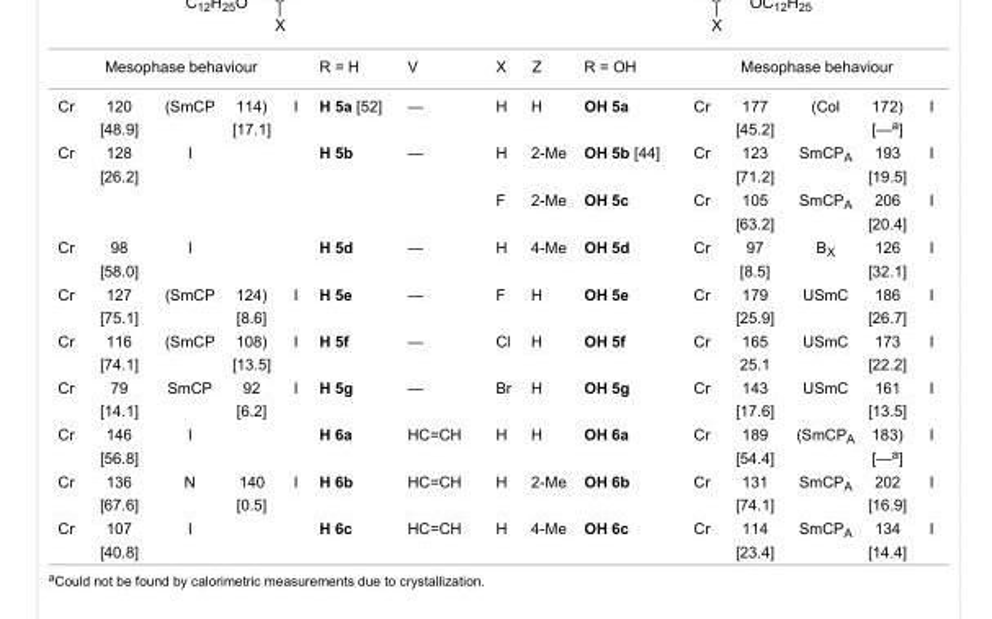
<table><tbody><tr><td colspan="5">Mesophase behaviour</td><td>R = H</td><td>V</td><td>X</td><td>Z</td><td>R = OH</td><td colspan="5">Mesophase behaviour</td></tr><tr><td rowspan="2">Cr</td><td>120</td><td>(SmCP</td><td>114)</td><td>I</td><td>H 5a [52]</td><td>—</td><td>H</td><td>H</td><td>OH 5a</td><td>Cr</td><td>177</td><td>(Col</td><td>172)</td><td>I</td></tr><tr><td>[48.9]</td><td></td><td>[17.1]</td><td></td><td></td><td></td><td></td><td></td><td></td><td></td><td>[45.2]</td><td></td><td>[—<sup>a</sup>]</td><td></td></tr><tr><td rowspan="4">Cr</td><td>128</td><td>I</td><td></td><td></td><td>H 5b</td><td>—</td><td>H</td><td>2-Me</td><td>OH 5b [44]</td><td>Cr</td><td>123</td><td>SmCP<sub>A</sub></td><td>193</td><td>I</td></tr><tr><td>[26.2]</td><td></td><td></td><td></td><td></td><td></td><td></td><td></td><td></td><td></td><td>[71.2]</td><td></td><td>[19.5]</td><td></td></tr><tr><td></td><td></td><td></td><td></td><td></td><td></td><td>F</td><td>2-Me</td><td>OH 5c</td><td>Cr</td><td>105</td><td>SmCP<sub>A</sub></td><td>206</td><td>I</td></tr><tr><td></td><td></td><td></td><td></td><td></td><td></td><td></td><td></td><td></td><td></td><td>[63.2]</td><td></td><td>[20.4]</td><td></td></tr><tr><td rowspan="2">Cr</td><td>98</td><td>I</td><td></td><td></td><td>H 5d</td><td>—</td><td>H</td><td>4-Me</td><td>OH 5d</td><td>Cr</td><td>97</td><td>B<sub>X</sub></td><td>126</td><td>I</td></tr><tr><td>[58.0]</td><td></td><td></td><td></td><td></td><td></td><td></td><td></td><td></td><td></td><td>[8.5]</td><td></td><td>[32.1]</td><td></td></tr><tr><td rowspan="2">Cr</td><td>127</td><td>(SmCP</td><td>124)</td><td>I</td><td>H 5e</td><td>—</td><td>F</td><td>H</td><td>OH 5e</td><td>Cr</td><td>179</td><td>USmC</td><td>186</td><td>I</td></tr><tr><td>[75.1]</td><td></td><td>[8.6]</td><td></td><td></td><td></td><td></td><td></td><td></td><td></td><td>[25.9]</td><td></td><td>[26.7]</td><td></td></tr><tr><td rowspan="2">Cr</td><td>116</td><td>(SmCP</td><td>108)</td><td>I</td><td>H 5f</td><td>—</td><td>Cl</td><td>H</td><td>OH 5f</td><td>Cr</td><td>165</td><td>USmC</td><td>173</td><td>I</td></tr><tr><td>[74.1]</td><td></td><td>[13.5]</td><td></td><td></td><td></td><td></td><td></td><td></td><td></td><td>25.1</td><td></td><td>[22.2]</td><td></td></tr><tr><td rowspan="2">Cr</td><td>79</td><td>SmCP</td><td>92</td><td>I</td><td>H 5g</td><td>—</td><td>Br</td><td>H</td><td>OH 5g</td><td>Cr</td><td>143</td><td>USmC</td><td>161</td><td>I</td></tr><tr><td>[14.1]</td><td></td><td>[6.2]</td><td></td><td></td><td></td><td></td><td></td><td></td><td></td><td>[17.6]</td><td></td><td>[13.5]</td><td></td></tr><tr><td rowspan="2">Cr</td><td>146</td><td>I</td><td></td><td></td><td>H 6a</td><td>HC=CH</td><td>H</td><td>H</td><td>OH 6a</td><td>Cr</td><td>189</td><td>(SmCP<sub>A</sub></td><td>183)</td><td>I</td></tr><tr><td>[56.8]</td><td></td><td></td><td></td><td></td><td></td><td></td><td></td><td></td><td></td><td>[54.4]</td><td></td><td>[—<sup>a</sup>]</td><td></td></tr><tr><td rowspan="2">Cr</td><td>136</td><td>N</td><td>140</td><td>I</td><td>H 6b</td><td>HC=CH</td><td>H</td><td>2-Me</td><td>OH 6b</td><td>Cr</td><td>131</td><td>SmCP<sub>A</sub></td><td>202</td><td>I</td></tr><tr><td>[67.6]</td><td></td><td>[0.5]</td><td></td><td></td><td></td><td></td><td></td><td></td><td></td><td>[74.1]</td><td></td><td>[16.9]</td><td></td></tr><tr><td rowspan="2">Cr</td><td>107</td><td>I</td><td></td><td></td><td>H 6c</td><td>HC=CH</td><td>H</td><td>4-Me</td><td>OH 6c</td><td>Cr</td><td>114</td><td>SmCP<sub>A</sub></td><td>134</td><td>I</td></tr><tr><td>[40.8]</td><td></td><td></td><td></td><td></td><td></td><td></td><td></td><td></td><td></td><td>[23.4]</td><td></td><td>[14.4]</td><td></td></tr></tbody></table>